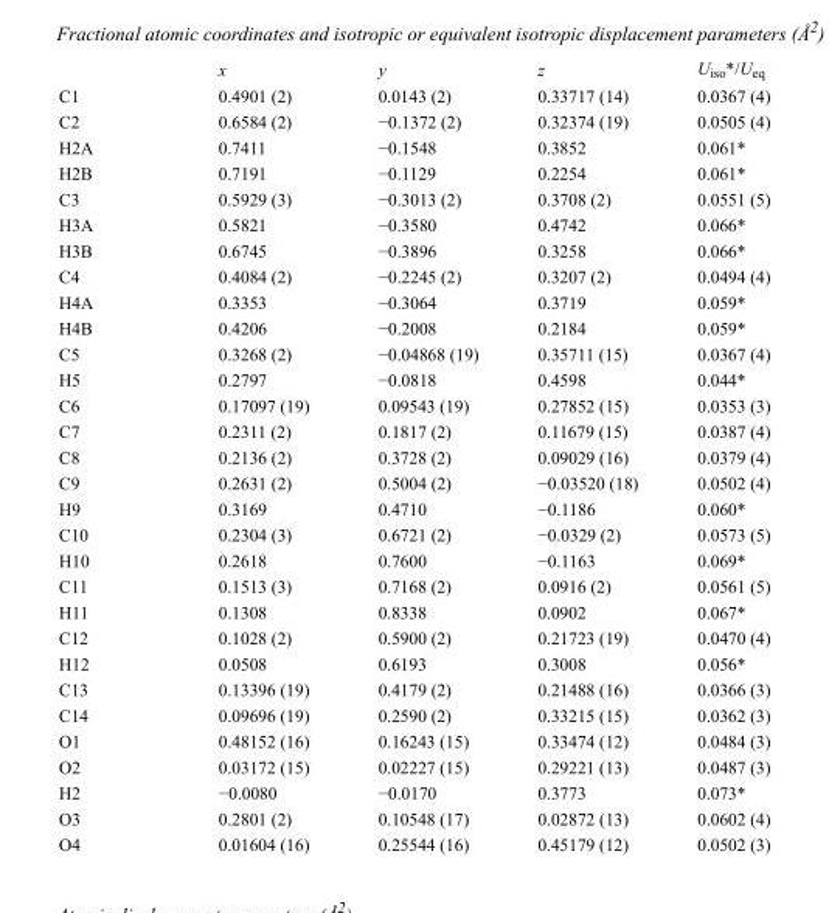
<table><thead><tr><td></td><td>x</td><td>y</td><td>z</td><td>U<sub>iso</sub>*/U<sub>eq</sub></td></tr></thead><tbody><tr><td>C1</td><td>0.4901 (2)</td><td>0.0143 (2)</td><td>0.33717 (14)</td><td>0.0367 (4)</td></tr><tr><td>C2</td><td>0.6584 (2)</td><td>−0.1372 (2)</td><td>0.32374 (19)</td><td>0.0505 (4)</td></tr><tr><td>H2A</td><td>0.7411</td><td>−0.1548</td><td>0.3852</td><td>0.061*</td></tr><tr><td>H2B</td><td>0.7191</td><td>−0.1129</td><td>0.2254</td><td>0.061*</td></tr><tr><td>C3</td><td>0.5929 (3)</td><td>−0.3013 (2)</td><td>0.3708 (2)</td><td>0.0551 (5)</td></tr><tr><td>H3A</td><td>0.5821</td><td>−0.3580</td><td>0.4742</td><td>0.066*</td></tr><tr><td>H3B</td><td>0.6745</td><td>−0.3896</td><td>0.3258</td><td>0.066*</td></tr><tr><td>C4</td><td>0.4084 (2)</td><td>−0.2245 (2)</td><td>0.3207 (2)</td><td>0.0494 (4)</td></tr><tr><td>H4A</td><td>0.3353</td><td>−0.3064</td><td>0.3719</td><td>0.059*</td></tr><tr><td>H4B</td><td>0.4206</td><td>−0.2008</td><td>0.2184</td><td>0.059*</td></tr><tr><td>C5</td><td>0.3268 (2)</td><td>−0.04868 (19)</td><td>0.35711 (15)</td><td>0.0367 (4)</td></tr><tr><td>H5</td><td>0.2797</td><td>−0.0818</td><td>0.4598</td><td>0.044*</td></tr><tr><td>C6</td><td>0.17097 (19)</td><td>0.09543 (19)</td><td>0.27852 (15)</td><td>0.0353 (3)</td></tr><tr><td>C7</td><td>0.2311 (2)</td><td>0.1817 (2)</td><td>0.11679 (15)</td><td>0.0387 (4)</td></tr><tr><td>C8</td><td>0.2136 (2)</td><td>0.3728 (2)</td><td>0.09029 (16)</td><td>0.0379 (4)</td></tr><tr><td>C9</td><td>0.2631 (2)</td><td>0.5004 (2)</td><td>−0.03520 (18)</td><td>0.0502 (4)</td></tr><tr><td>H9</td><td>0.3169</td><td>0.4710</td><td>−0.1186</td><td>0.060*</td></tr><tr><td>C10</td><td>0.2304 (3)</td><td>0.6721 (2)</td><td>−0.0329 (2)</td><td>0.0573 (5)</td></tr><tr><td>H10</td><td>0.2618</td><td>0.7600</td><td>−0.1163</td><td>0.069*</td></tr><tr><td>C11</td><td>0.1513 (3)</td><td>0.7168 (2)</td><td>0.0916 (2)</td><td>0.0561 (5)</td></tr><tr><td>H11</td><td>0.1308</td><td>0.8338</td><td>0.0902</td><td>0.067*</td></tr><tr><td>C12</td><td>0.1028 (2)</td><td>0.5900 (2)</td><td>0.21723 (19)</td><td>0.0470 (4)</td></tr><tr><td>H12</td><td>0.0508</td><td>0.6193</td><td>0.3008</td><td>0.056*</td></tr><tr><td>C13</td><td>0.13396 (19)</td><td>0.4179 (2)</td><td>0.21488 (16)</td><td>0.0366 (3)</td></tr><tr><td>C14</td><td>0.09696 (19)</td><td>0.2590 (2)</td><td>0.33215 (15)</td><td>0.0362 (3)</td></tr><tr><td>O1</td><td>0.48152 (16)</td><td>0.16243 (15)</td><td>0.33474 (12)</td><td>0.0484 (3)</td></tr><tr><td>O2</td><td>0.03172 (15)</td><td>0.02227 (15)</td><td>0.29221 (13)</td><td>0.0487 (3)</td></tr><tr><td>H2</td><td>−0.0080</td><td>−0.0170</td><td>0.3773</td><td>0.073*</td></tr><tr><td>O3</td><td>0.2801 (2)</td><td>0.10548 (17)</td><td>0.02872 (13)</td><td>0.0602 (4)</td></tr><tr><td>O4</td><td>0.01604 (16)</td><td>0.25544 (16)</td><td>0.45179 (12)</td><td>0.0502 (3)</td></tr></tbody></table>